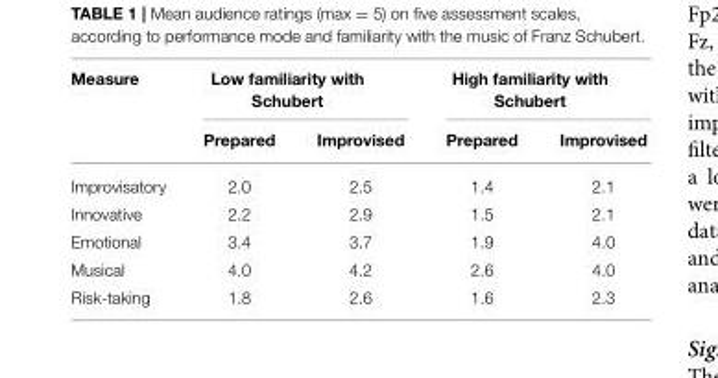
<table><thead><tr><td rowspan="2">Measure</td><td colspan="2">Low familiarity with Schubert</td><td colspan="2">High familiarity with Schubert</td></tr><tr><td>Prepared</td><td>Improvised</td><td>Prepared</td><td>Improvised</td></tr></thead><tbody><tr><td>Improvisatory</td><td>2.0</td><td>2.5</td><td>1.4</td><td>2.1</td></tr><tr><td>Innovative</td><td>2.2</td><td>2.9</td><td>1.5</td><td>2.1</td></tr><tr><td>Emotional</td><td>3.4</td><td>3.7</td><td>1.9</td><td>4.0</td></tr><tr><td>Musical</td><td>4.0</td><td>4.2</td><td>2.6</td><td>4.0</td></tr><tr><td>Risk-taking</td><td>1.8</td><td>2.6</td><td>1.6</td><td>2.3</td></tr></tbody></table>